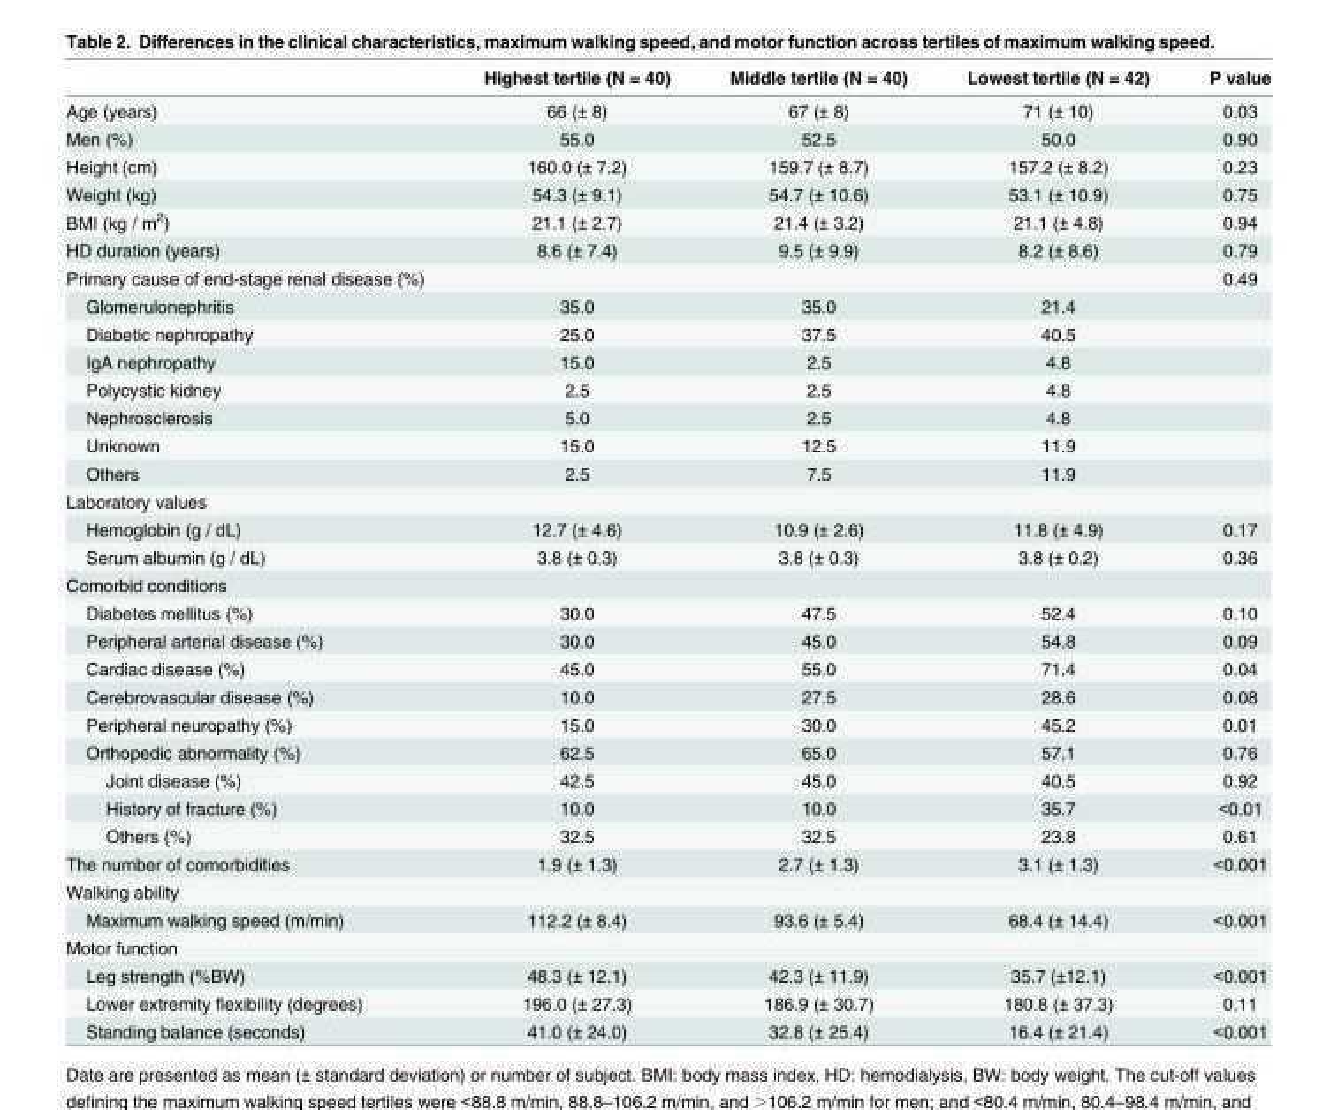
<table><thead><tr><td></td><td>Highest tertile (N = 40)</td><td>Middle tertile (N = 40)</td><td>Lowest tertile (N = 42)</td><td>P value</td></tr></thead><tbody><tr><td>Age (years)</td><td>66 (± 8)</td><td>67 (± 8)</td><td>71 (± 10)</td><td>0.03</td></tr><tr><td>Men (%)</td><td>55.0</td><td>52.5</td><td>50.0</td><td>0.90</td></tr><tr><td>Height (cm)</td><td>160.0 (± 7.2)</td><td>159.7 (± 8.7)</td><td>157.2 (± 8.2)</td><td>0.23</td></tr><tr><td>Weight (kg)</td><td>54.3 (± 9.1)</td><td>54.7 (± 10.6)</td><td>53.1 (± 10.9)</td><td>0.75</td></tr><tr><td>BMI (kg / m<sup>2</sup>)</td><td>21.1 (± 2.7)</td><td>21.4 (± 3.2)</td><td>21.1 (± 4.8)</td><td>0.94</td></tr><tr><td>HD duration (years)</td><td>8.6 (± 7.4)</td><td>9.5 (± 9.9)</td><td>8.2 (± 8.6)</td><td>0.79</td></tr><tr><td>Primary cause of end-stage renal disease (%)</td><td></td><td></td><td></td><td>0.49</td></tr><tr><td>Glomerulonephritis</td><td>35.0</td><td>35.0</td><td>21.4</td><td></td></tr><tr><td>Diabetic nephropathy</td><td>25.0</td><td>37.5</td><td>40.5</td><td></td></tr><tr><td>IgA nephropathy</td><td>15.0</td><td>2.5</td><td>4.8</td><td></td></tr><tr><td>Polycystic kidney</td><td>2.5</td><td>2.5</td><td>4.8</td><td></td></tr><tr><td>Nephrosclerosis</td><td>5.0</td><td>2.5</td><td>4.8</td><td></td></tr><tr><td>Unknown</td><td>15.0</td><td>12.5</td><td>11.9</td><td></td></tr><tr><td>Others</td><td>2.5</td><td>7.5</td><td>11.9</td><td></td></tr><tr><td colspan="5">Laboratory values</td></tr><tr><td>Hemoglobin (g / dL)</td><td>12.7 (± 4.6)</td><td>10.9 (± 2.6)</td><td>11.8 (± 4.9)</td><td>0.17</td></tr><tr><td>Serum albumin (g / dL)</td><td>3.8 (± 0.3)</td><td>3.8 (± 0.3)</td><td>3.8 (± 0.2)</td><td>0.36</td></tr><tr><td colspan="5">Comorbid conditions</td></tr><tr><td>Diabetes mellitus (%)</td><td>30.0</td><td>47.5</td><td>52.4</td><td>0.10</td></tr><tr><td>Peripheral arterial disease (%)</td><td>30.0</td><td>45.0</td><td>54.8</td><td>0.09</td></tr><tr><td>Cardiac disease (%)</td><td>45.0</td><td>55.0</td><td>71.4</td><td>0.04</td></tr><tr><td>Cerebrovascular disease (%)</td><td>10.0</td><td>27.5</td><td>28.6</td><td>0.08</td></tr><tr><td>Peripheral neuropathy (%)</td><td>15.0</td><td>30.0</td><td>45.2</td><td>0.01</td></tr><tr><td>Orthopedic abnormality (%)</td><td>62.5</td><td>65.0</td><td>57.1</td><td>0.76</td></tr><tr><td>Joint disease (%)</td><td>42.5</td><td>45.0</td><td>40.5</td><td>0.92</td></tr><tr><td>History of fracture (%)</td><td>10.0</td><td>10.0</td><td>35.7</td><td>&lt;0.01</td></tr><tr><td>Others (%)</td><td>32.5</td><td>32.5</td><td>23.8</td><td>0.61</td></tr><tr><td>The number of comorbidities</td><td>1.9 (± 1.3)</td><td>2.7 (± 1.3)</td><td>3.1 (± 1.3)</td><td>&lt;0.001</td></tr><tr><td colspan="5">Walking ability</td></tr><tr><td>Maximum walking speed (m/min)</td><td>112.2 (± 8.4)</td><td>93.6 (± 5.4)</td><td>68.4 (± 14.4)</td><td>&lt;0.001</td></tr><tr><td colspan="5">Motor function</td></tr><tr><td>Leg strength (%BW)</td><td>48.3 (± 12.1)</td><td>42.3 (± 11.9)</td><td>35.7 (±12.1)</td><td>&lt;0.001</td></tr><tr><td>Lower extremity flexibility (degrees)</td><td>196.0 (± 27.3)</td><td>186.9 (± 30.7)</td><td>180.8 (± 37.3)</td><td>0.11</td></tr><tr><td>Standing balance (seconds)</td><td>41.0 (± 24.0)</td><td>32.8 (± 25.4)</td><td>16.4 (± 21.4)</td><td>&lt;0.001</td></tr></tbody></table>